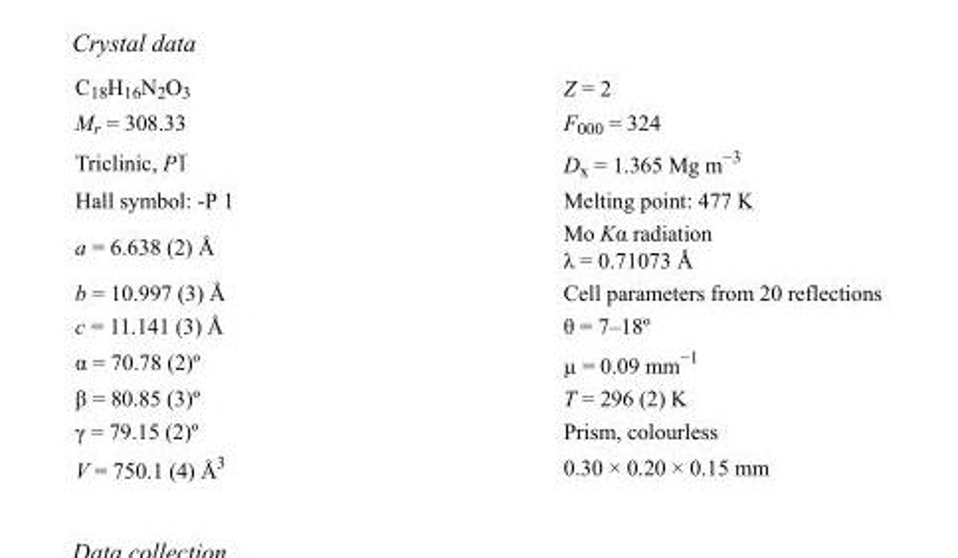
<table><tbody><tr><td>C<sub>18</sub>H<sub>16</sub>N<sub>2</sub>O<sub>3</sub></td><td>Z = 2</td></tr><tr><td>M<sub>r</sub> = 308.33</td><td>F<sub>000</sub> = 324</td></tr><tr><td>Triclinic, P1</td><td>D<sub>x</sub> = 1.365 Mg m<sup>−3</sup></td></tr><tr><td>Hall symbol: -P 1</td><td>Melting point: 477 K</td></tr><tr><td>a = 6.638 (2) Å</td><td>Mo Kα radiation λ = 0.71073 Å</td></tr><tr><td>b = 10.997 (3) Å</td><td>Cell parameters from 20 reflections</td></tr><tr><td>c = 11.141 (3) Å</td><td>θ = 7–18º</td></tr><tr><td>α = 70.78 (2)º</td><td>µ = 0.09 mm<sup>−1</sup></td></tr><tr><td>β = 80.85 (3)º</td><td>T = 296 (2) K</td></tr><tr><td>γ = 79.15 (2)º</td><td>Prism, colourless</td></tr><tr><td>V = 750.1 (4) Å<sup>3</sup></td><td>0.30 × 0.20 × 0.15 mm</td></tr></tbody></table>